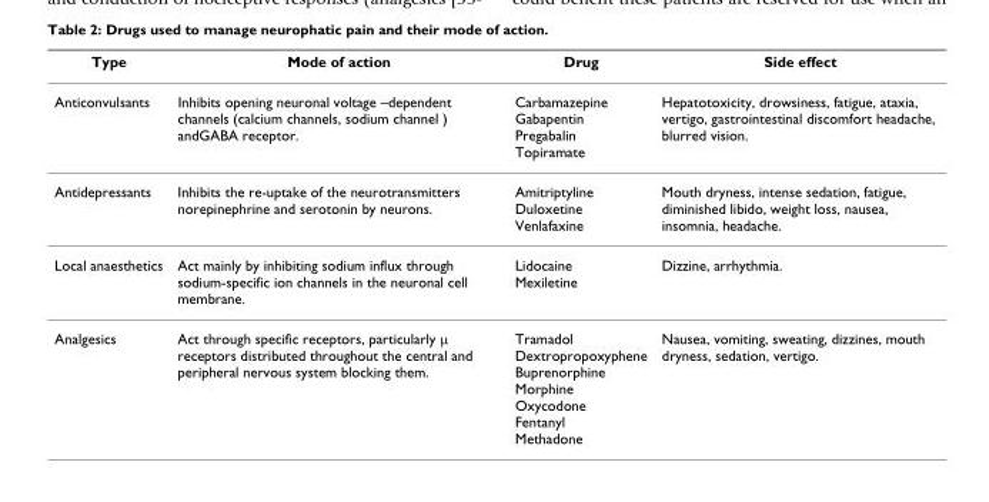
<table><thead><tr><td>Type</td><td>Mode of action</td><td>Drug</td><td>Side effect</td></tr></thead><tbody><tr><td>Anticonvulsants</td><td>Inhibits opening neuronal voltage –dependent channels (calcium channels, sodium channel ) andGABA receptor.</td><td>Carbamazepine Gabapentin Pregabalin Topiramate</td><td>Hepatotoxicity, drowsiness, fatigue, ataxia, vertigo, gastrointestinal discomfort headache, blurred vision.</td></tr><tr><td>Antidepressants</td><td>Inhibits the re-uptake of the neurotransmitters norepinephrine and serotonin by neurons.</td><td>Amitriptyline Duloxetine Venlafaxine</td><td>Mouth dryness, intense sedation, fatigue, diminished libido, weight loss, nausea, insomnia, headache.</td></tr><tr><td>Local anaesthetics</td><td>Act mainly by inhibiting sodium influx through sodium-specific ion channels in the neuronal cell membrane.</td><td>Lidocaine Mexiletine</td><td>Dizzine, arrhythmia.</td></tr><tr><td>Analgesics</td><td>Act through specific receptors, particularly μ receptors distributed throughout the central and peripheral nervous system blocking them.</td><td>Tramadol Dextropropoxyphene Buprenorphine Morphine Oxycodone Fentanyl Methadone</td><td>Nausea, vomiting, sweating, dizzines, mouth dryness, sedation, vertigo.</td></tr></tbody></table>